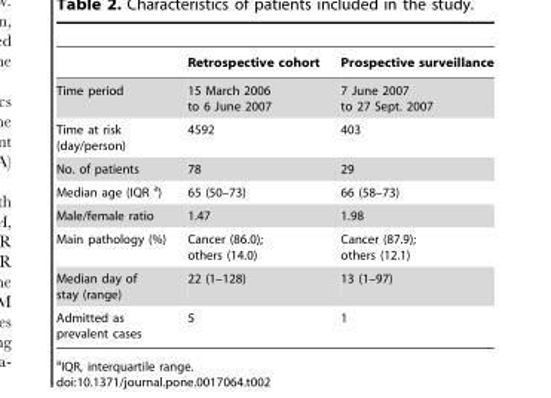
<table><thead><tr><td></td><td>Retrospective cohort</td><td>Prospective surveillance</td></tr></thead><tbody><tr><td>Time period</td><td>15 March 2006 to 6 June 2007</td><td>7 June 2007 to 27 Sept. 2007</td></tr><tr><td>Time at risk (day/person)</td><td>4592</td><td>403</td></tr><tr><td>No. of patients</td><td>78</td><td>29</td></tr><tr><td>Median age (IQR a)</td><td>65 (50–73)</td><td>66 (58–73)</td></tr><tr><td>Male/female ratio</td><td>1.47</td><td>1.98</td></tr><tr><td>Main pathology (%)</td><td>Cancer (86.0); others (14.0)</td><td>Cancer (87.9); others (12.1)</td></tr><tr><td>Median day of stay (range)</td><td>22 (1–128)</td><td>13 (1–97)</td></tr><tr><td>Admitted as prevalent cases</td><td>5</td><td>1</td></tr></tbody></table>